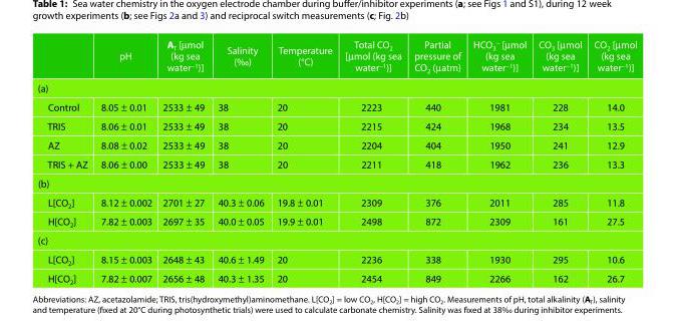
<table><thead><tr><td></td><td>pH</td><td>A<sub>T</sub> [µmol (kg sea water<sup>−1</sup>)]</td><td>Salinity (‰)</td><td>Temperature (°C)</td><td>Total CO<sub>2</sub> [µmol (kg sea water<sup>−1</sup>)]</td><td>Partial pressure of CO<sub>2</sub> (µatm)</td><td>HCO<sub>3</sub> <sup>−</sup> [µmol (kg sea water<sup>−1</sup>)]</td><td>CO<sub>3</sub> [µmol (kg sea water<sup>−1</sup>)]</td><td>CO<sub>2</sub> [µmol (kg sea water<sup>−1</sup>)]</td></tr></thead><tbody><tr><td colspan="10">(a)</td></tr><tr><td>Control</td><td>8.05 ± 0.01</td><td>2533 ± 49</td><td>38</td><td>20</td><td>2223</td><td>440</td><td>1981</td><td>228</td><td>14.0</td></tr><tr><td>TRIS</td><td>8.06 ± 0.01</td><td>2533 ± 49</td><td>38</td><td>20</td><td>2215</td><td>424</td><td>1968</td><td>234</td><td>13.5</td></tr><tr><td>AZ</td><td>8.08 ± 0.02</td><td>2533 ± 49</td><td>38</td><td>20</td><td>2204</td><td>404</td><td>1950</td><td>241</td><td>12.9</td></tr><tr><td>TRIS + AZ</td><td>8.06 ± 0.00</td><td>2533 ± 49</td><td>38</td><td>20</td><td>2211</td><td>418</td><td>1962</td><td>236</td><td>13.3</td></tr><tr><td colspan="10">(b)</td></tr><tr><td>L[CO<sub>2</sub>]</td><td>8.12 ± 0.002</td><td>2701 ± 27</td><td>40.3 ± 0.06</td><td>19.8 ± 0.01</td><td>2309</td><td>376</td><td>2011</td><td>285</td><td>11.8</td></tr><tr><td>H[CO<sub>2</sub>]</td><td>7.82 ± 0.003</td><td>2697 ± 35</td><td>40.0 ± 0.05</td><td>19.9 ± 0.01</td><td>2498</td><td>872</td><td>2309</td><td>161</td><td>27.5</td></tr><tr><td colspan="10">(c)</td></tr><tr><td>L[CO<sub>2</sub>]</td><td>8.15 ± 0.003</td><td>2648 ± 43</td><td>40.6 ± 1.49</td><td>20</td><td>2236</td><td>338</td><td>1930</td><td>295</td><td>10.6</td></tr><tr><td>H[CO<sub>2</sub>]</td><td>7.82 ± 0.007</td><td>2656 ± 48</td><td>40.3 ± 1.35</td><td>20</td><td>2454</td><td>849</td><td>2266</td><td>162</td><td>26.7</td></tr></tbody></table>